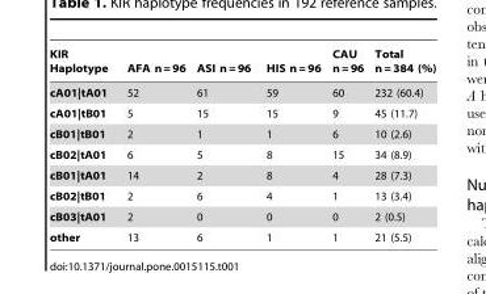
<table><thead><tr><td>KIR Haplotype</td><td>AFA n = 96</td><td>ASI n = 96</td><td>HIS n = 96</td><td>CAU n = 96</td><td>Total n = 384 (%)</td></tr></thead><tbody><tr><td>cA01|tA01</td><td>52</td><td>61</td><td>59</td><td>60</td><td>232 (60.4)</td></tr><tr><td>cA01|tB01</td><td>5</td><td>15</td><td>15</td><td>9</td><td>45 (11.7)</td></tr><tr><td>cB01|tB01</td><td>2</td><td>1</td><td>1</td><td>6</td><td>10 (2.6)</td></tr><tr><td>cB02|tA01</td><td>6</td><td>5</td><td>8</td><td>15</td><td>34 (8.9)</td></tr><tr><td>cB01|tA01</td><td>14</td><td>2</td><td>8</td><td>4</td><td>28 (7.3)</td></tr><tr><td>cB02|tB01</td><td>2</td><td>6</td><td>4</td><td>1</td><td>13 (3.4)</td></tr><tr><td>cB03|tA01</td><td>2</td><td>0</td><td>0</td><td>0</td><td>2 (0.5)</td></tr><tr><td>other</td><td>13</td><td>6</td><td>1</td><td>1</td><td>21 (5.5)</td></tr></tbody></table>